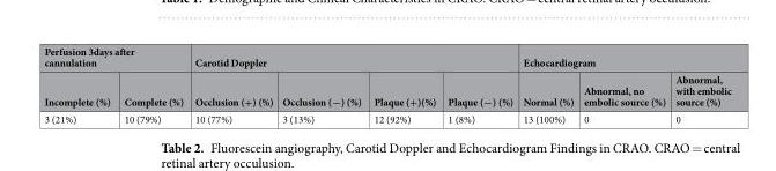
<table><thead><tr><td colspan="2">Perfusion 3days after cannulation</td><td colspan="4">Carotid Doppler</td><td colspan="3">Echocardiogram</td></tr><tr><td>Incomplete (%)</td><td>Complete (%)</td><td>Occlusion (+) (%)</td><td>Occlusion (−) (%)</td><td>Plaque (+)(%)</td><td>Plaque (−) (%)</td><td>Normal (%)</td><td>Abnormal, no embolic source (%)</td><td>Abnormal, with embolic source (%)</td></tr></thead><tbody><tr><td>3 (21%)</td><td>10 (79%)</td><td>10 (77%)</td><td>3 (13%)</td><td>12 (92%)</td><td>1 (8%)</td><td>13 (100%)</td><td>0</td><td>0</td></tr></tbody></table>